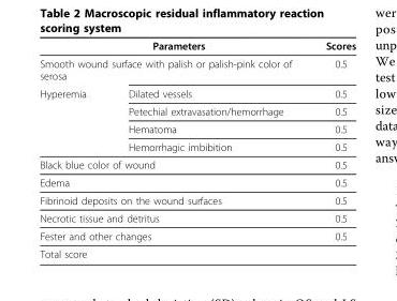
<table><thead><tr><td rowspan="2" colspan="2">Parameters Smooth wound surface with palish or palish-pink color of serosa</td><td rowspan="3">Scores 0.5 0.5</td></tr><tr></tr><tr><td>Hyperemia</td><td>Dilated vessels</td></tr></thead><tbody><tr><td></td><td>Petechial extravasation/hemorrhage</td><td>0.5</td></tr><tr><td></td><td>Hematoma</td><td>0.5</td></tr><tr><td></td><td>Hemorrhagic imbibition</td><td>0.5</td></tr><tr><td colspan="2">Black blue color of wound</td><td>0.5</td></tr><tr><td colspan="2">Edema</td><td>0.5</td></tr><tr><td colspan="2">Fibrinoid deposits on the wound surfaces</td><td>0.5</td></tr><tr><td colspan="2">Necrotic tissue and detritus</td><td>0.5</td></tr><tr><td colspan="2">Fester and other changes</td><td>0.5</td></tr><tr><td colspan="2">Total score</td><td></td></tr></tbody></table>